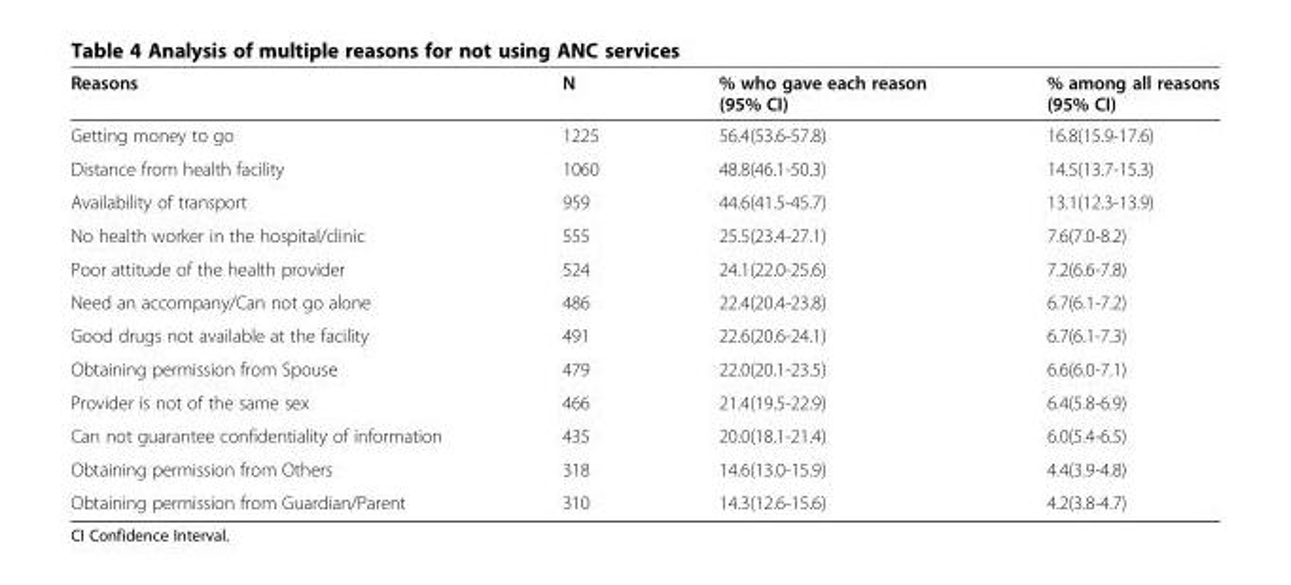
<table><thead><tr><td>Reasons</td><td>N</td><td>% who gave each reason (95% CI)</td><td>% among all reasons (95% CI)</td></tr></thead><tbody><tr><td>Getting money to go</td><td>1225</td><td>56.4(53.6-57.8)</td><td>16.8(15.9-17.6)</td></tr><tr><td>Distance from health facility</td><td>1060</td><td>48.8(46.1-50.3)</td><td>14.5(13.7-15.3)</td></tr><tr><td>Availability of transport</td><td>959</td><td>44.6(41.5-45.7)</td><td>13.1(12.3-13.9)</td></tr><tr><td>No health worker in the hospital/clinic</td><td>555</td><td>25.5(23.4-27.1)</td><td>7.6(7.0-8.2)</td></tr><tr><td>Poor attitude of the health provider</td><td>524</td><td>24.1(22.0-25.6)</td><td>7.2(6.6-7.8)</td></tr><tr><td>Need an accompany/Can not go alone</td><td>486</td><td>22.4(20.4-23.8)</td><td>6.7(6.1-7.2)</td></tr><tr><td>Good drugs not available at the facility</td><td>491</td><td>22.6(20.6-24.1)</td><td>6.7(6.1-7.3)</td></tr><tr><td>Obtaining permission from Spouse</td><td>479</td><td>22.0(20.1-23.5)</td><td>6.6(6.0-7.1)</td></tr><tr><td>Provider is not of the same sex</td><td>466</td><td>21.4(19.5-22.9)</td><td>6.4(5.8-6.9)</td></tr><tr><td>Can not guarantee confidentiality of information</td><td>435</td><td>20.0(18.1-21.4)</td><td>6.0(5.4-6.5)</td></tr><tr><td>Obtaining permission from Others</td><td>318</td><td>14.6(13.0-15.9)</td><td>4.4(3.9-4.8)</td></tr><tr><td>Obtaining permission from Guardian/Parent</td><td>310</td><td>14.3(12.6-15.6)</td><td>4.2(3.8-4.7)</td></tr></tbody></table>